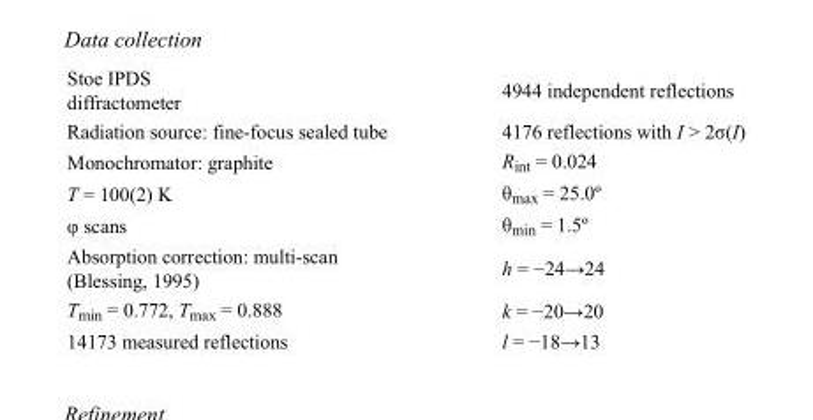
<table><tbody><tr><td>Stoe IPDS diffractometer</td><td>4944 independent reflections</td></tr><tr><td>Radiation source: fine-focus sealed tube</td><td>4176 reflections with I &gt; 2σ(I)</td></tr><tr><td>Monochromator: graphite</td><td>R<sub>int</sub> = 0.024</td></tr><tr><td>T = 100(2) K</td><td>θ<sub>max</sub> = 25.0º</td></tr><tr><td>φ scans</td><td>θ<sub>min</sub> = 1.5º</td></tr><tr><td>Absorption correction: multi-scan (Blessing, 1995)</td><td>h = −24→24</td></tr><tr><td>T<sub>min</sub> = 0.772, T<sub>max</sub> = 0.888</td><td>k = −20→20</td></tr><tr><td>14173 measured reflections</td><td>l = −18→13</td></tr></tbody></table>